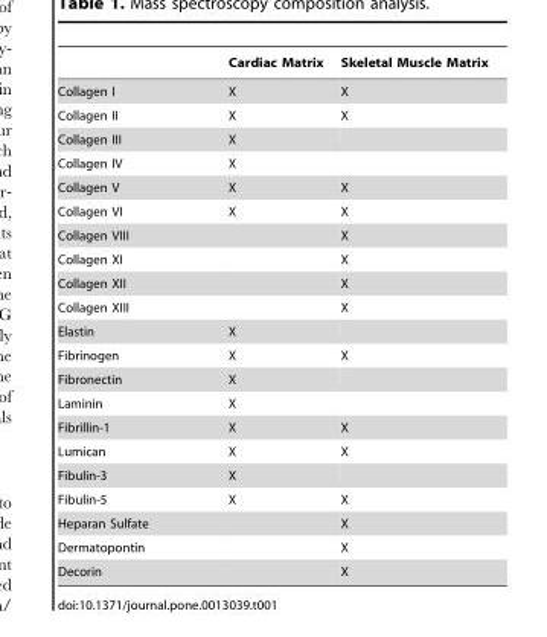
<table><thead><tr><td></td><td>Cardiac Matrix</td><td>Skeletal Muscle Matrix</td></tr></thead><tbody><tr><td>Collagen I</td><td>X</td><td>X</td></tr><tr><td>Collagen II</td><td>X</td><td>X</td></tr><tr><td>Collagen III</td><td>X</td><td></td></tr><tr><td>Collagen IV</td><td>X</td><td></td></tr><tr><td>Collagen V</td><td>X</td><td>X</td></tr><tr><td>Collagen VI</td><td>X</td><td>X</td></tr><tr><td>Collagen VIII</td><td></td><td>X</td></tr><tr><td>Collagen XI</td><td></td><td>X</td></tr><tr><td>Collagen XII</td><td></td><td>X</td></tr><tr><td>Collagen XIII</td><td></td><td>X</td></tr><tr><td>Elastin</td><td>X</td><td></td></tr><tr><td>Fibrinogen</td><td>X</td><td>X</td></tr><tr><td>Fibronectin</td><td>X</td><td></td></tr><tr><td>Laminin</td><td>X</td><td></td></tr><tr><td>Fibrillin-1</td><td>X</td><td>X</td></tr><tr><td>Lumican</td><td>X</td><td>X</td></tr><tr><td>Fibulin-3</td><td>X</td><td></td></tr><tr><td>Fibulin-5</td><td>X</td><td>X</td></tr><tr><td>Heparan Sulfate</td><td></td><td>X</td></tr><tr><td>Dermatopontin</td><td></td><td>X</td></tr><tr><td>Decorin</td><td></td><td>X</td></tr></tbody></table>